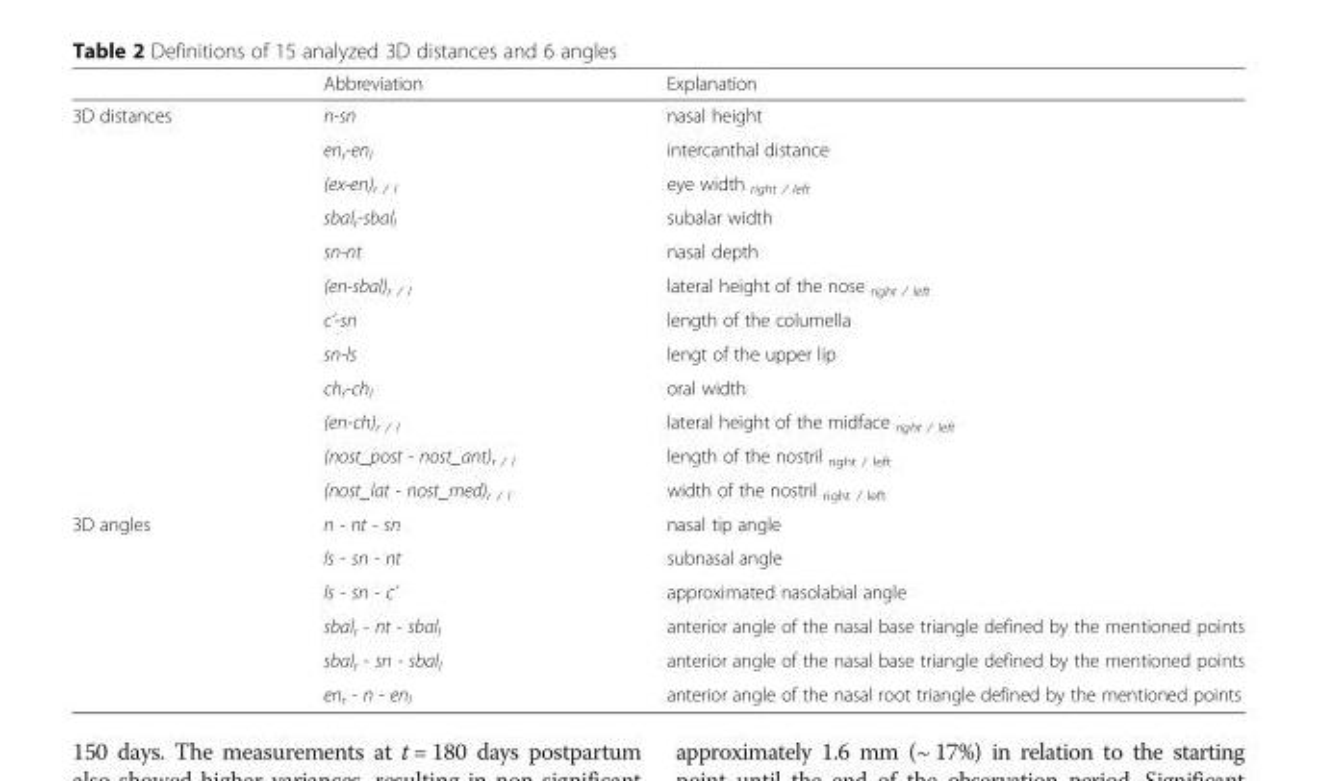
<table><thead><tr><td></td><td>Abbreviation</td><td>Explanation</td></tr></thead><tbody><tr><td rowspan="12">3D distances</td><td>n-sn</td><td>nasal height</td></tr><tr><td>en<sub>r</sub>-en<sub>l</sub></td><td>intercanthal distance</td></tr><tr><td>(ex-en)<sub>r / l</sub></td><td>eye width <sub>right / left</sub></td></tr><tr><td>sbal<sub>r</sub>-sbal<sub>l</sub></td><td>subalar width</td></tr><tr><td>sn-nt</td><td>nasal depth</td></tr><tr><td>(en-sbal)<sub>r / l</sub></td><td>lateral height of the nose <sub>right / left</sub></td></tr><tr><td>c’-sn</td><td>length of the columella</td></tr><tr><td>sn-ls</td><td>lengt of the upper lip</td></tr><tr><td>ch<sub>r</sub>-ch<sub>l</sub></td><td>oral width</td></tr><tr><td>(en-ch)<sub>r / l</sub></td><td>lateral height of the midface <sub>right / left</sub></td></tr><tr><td>(nost_post - nost_ant)<sub>r / l</sub></td><td>length of the nostril <sub>right / left</sub></td></tr><tr><td>(nost_lat - nost_med)<sub>r / l</sub></td><td>width of the nostril <sub>right / left</sub></td></tr><tr><td rowspan="6">3D angles</td><td>n - nt - sn</td><td>nasal tip angle</td></tr><tr><td>ls - sn - nt</td><td>subnasal angle</td></tr><tr><td>ls - sn - c’</td><td>approximated nasolabial angle</td></tr><tr><td>sbal<sub>r</sub> - nt - sbal<sub>l</sub></td><td>anterior angle of the nasal base triangle defined by the mentioned points</td></tr><tr><td>sbal<sub>r</sub> - sn - sbal<sub>l</sub></td><td>anterior angle of the nasal base triangle defined by the mentioned points</td></tr><tr><td>en<sub>r</sub> - n - en<sub>l</sub></td><td>anterior angle of the nasal root triangle defined by the mentioned points</td></tr></tbody></table>